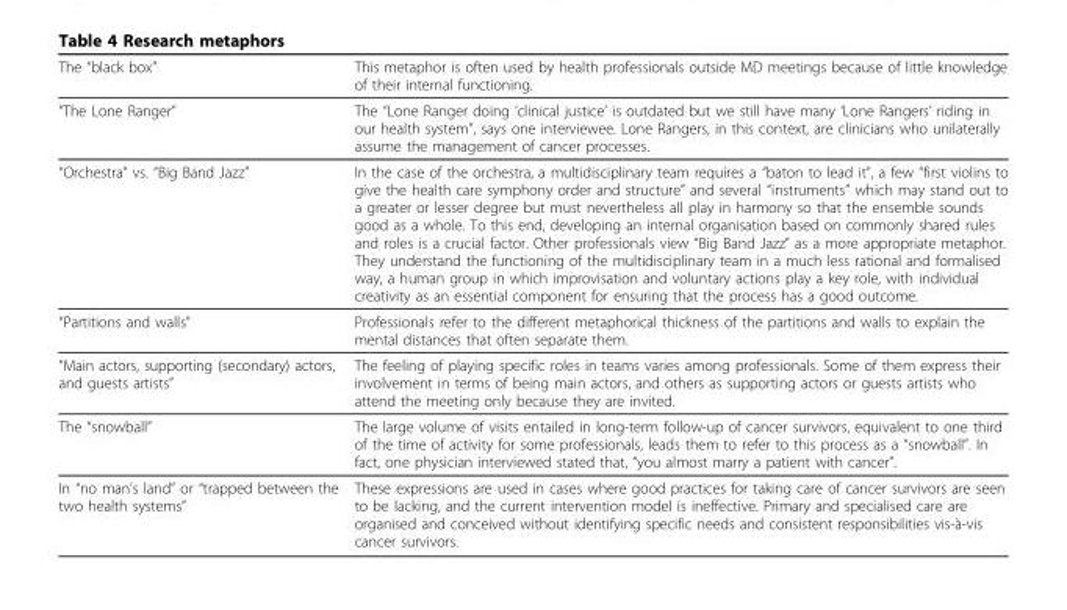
<table><thead><tr><td>The “black box”</td><td>This metaphor is often used by health professionals outside MD meetings because of little knowledge of their internal functioning.</td></tr></thead><tbody><tr><td>“The Lone Ranger”</td><td>The “Lone Ranger doing ‘clinical justice’ is outdated but we still have many ‘Lone Rangers’ riding in our health system”, says one interviewee. Lone Rangers, in this context, are clinicians who unilaterally assume the management of cancer processes.</td></tr><tr><td>“Orchestra” vs. “Big Band Jazz”</td><td>In the case of the orchestra, a multidisciplinary team requires a “baton to lead it”, a few “first violins to give the health care symphony order and structure” and several “instruments” which may stand out to a greater or lesser degree but must nevertheless all play in harmony so that the ensemble sounds good as a whole. To this end, developing an internal organisation based on commonly shared rules and roles is a crucial factor. Other professionals view “Big Band Jazz” as a more appropriate metaphor. They understand the functioning of the multidisciplinary team in a much less rational and formalised way, a human group in which improvisation and voluntary actions play a key role, with individual creativity as an essential component for ensuring that the process has a good outcome.</td></tr><tr><td>“Partitions and walls”</td><td>Professionals refer to the different metaphorical thickness of the partitions and walls to explain the mental distances that often separate them.</td></tr><tr><td>“Main actors, supporting (secondary) actors, and guests artists”</td><td>The feeling of playing specific roles in teams varies among professionals. Some of them express their involvement in terms of being main actors, and others as supporting actors or guests artists who attend the meeting only because they are invited.</td></tr><tr><td>The “snowball”</td><td>The large volume of visits entailed in long-term follow-up of cancer survivors, equivalent to one third of the time of activity for some professionals, leads them to refer to this process as a “snowball”. In fact, one physician interviewed stated that, “you almost marry a patient with cancer”.</td></tr><tr><td>In “no man’s land” or “trapped between the two health systems”</td><td>These expressions are used in cases where good practices for taking care of cancer survivors are seen to be lacking, and the current intervention model is ineffective. Primary and specialised care are organised and conceived without identifying specific needs and consistent responsibilities vis-à-vis cancer survivors.</td></tr></tbody></table>